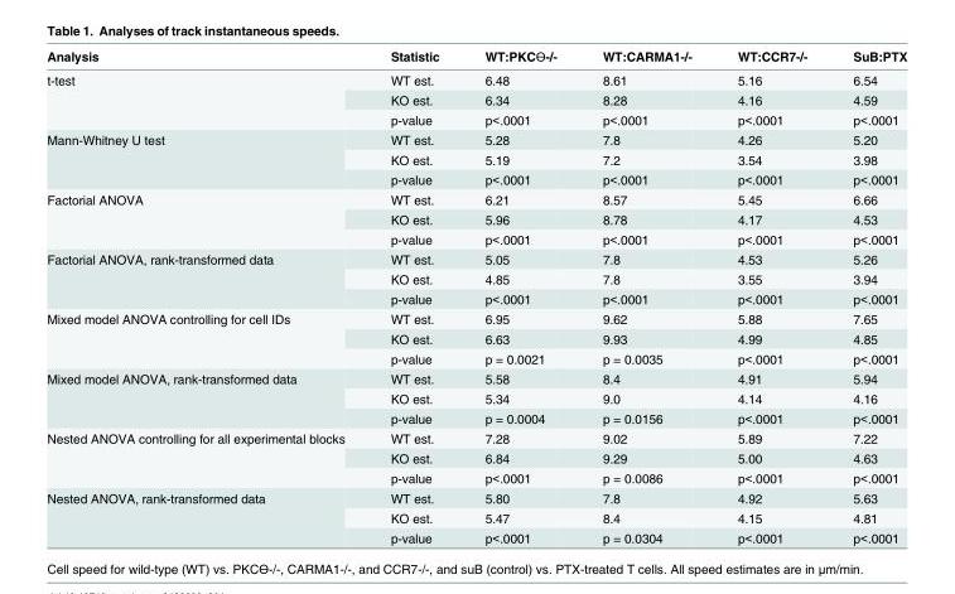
<table><thead><tr><td>Analysis</td><td>Statistic</td><td>WT:PKCƟ-/-</td><td>WT:CARMA1-/-</td><td>WT:CCR7-/-</td><td>SuB:PTX</td></tr></thead><tbody><tr><td rowspan="3">t-test</td><td>WT est.</td><td>6.48</td><td>8.61</td><td>5.16</td><td>6.54</td></tr><tr><td>KO est.</td><td>6.34</td><td>8.28</td><td>4.16</td><td>4.59</td></tr><tr><td>p-value</td><td>p&lt;.0001</td><td>p&lt;.0001</td><td>p&lt;.0001</td><td>p&lt;.0001</td></tr><tr><td rowspan="3">Mann-Whitney U test</td><td>WT est.</td><td>5.28</td><td>7.8</td><td>4.26</td><td>5.20</td></tr><tr><td>KO est.</td><td>5.19</td><td>7.2</td><td>3.54</td><td>3.98</td></tr><tr><td>p-value</td><td>p&lt;.0001</td><td>p&lt;.0001</td><td>p&lt;.0001</td><td>p&lt;.0001</td></tr><tr><td rowspan="3">Factorial ANOVA</td><td>WT est.</td><td>6.21</td><td>8.57</td><td>5.45</td><td>6.66</td></tr><tr><td>KO est.</td><td>5.96</td><td>8.78</td><td>4.17</td><td>4.53</td></tr><tr><td>p-value</td><td>p&lt;.0001</td><td>p&lt;.0001</td><td>p&lt;.0001</td><td>p&lt;.0001</td></tr><tr><td rowspan="3">Factorial ANOVA, rank-transformed data</td><td>WT est.</td><td>5.05</td><td>7.8</td><td>4.53</td><td>5.26</td></tr><tr><td>KO est.</td><td>4.85</td><td>7.8</td><td>3.55</td><td>3.94</td></tr><tr><td>p-value</td><td>p&lt;.0001</td><td>p&lt;.0001</td><td>p&lt;.0001</td><td>p&lt;.0001</td></tr><tr><td rowspan="3">Mixed model ANOVA controlling for cell IDs</td><td>WT est.</td><td>6.95</td><td>9.62</td><td>5.88</td><td>7.65</td></tr><tr><td>KO est.</td><td>6.63</td><td>9.93</td><td>4.99</td><td>4.85</td></tr><tr><td>p-value</td><td>p = 0.0021</td><td>p = 0.0035</td><td>p&lt;.0001</td><td>p&lt;.0001</td></tr><tr><td rowspan="3">Mixed model ANOVA, rank-transformed data</td><td>WT est.</td><td>5.58</td><td>8.4</td><td>4.91</td><td>5.94</td></tr><tr><td>KO est.</td><td>5.34</td><td>9.0</td><td>4.14</td><td>4.16</td></tr><tr><td>p-value</td><td>p = 0.0004</td><td>p = 0.0156</td><td>p&lt;.0001</td><td>p&lt;.0001</td></tr><tr><td rowspan="3">Nested ANOVA controlling for all experimental blocks</td><td>WT est.</td><td>7.28</td><td>9.02</td><td>5.89</td><td>7.22</td></tr><tr><td>KO est.</td><td>6.84</td><td>9.29</td><td>5.00</td><td>4.63</td></tr><tr><td>p-value</td><td>p&lt;.0001</td><td>p = 0.0086</td><td>p&lt;.0001</td><td>p&lt;.0001</td></tr><tr><td rowspan="3">Nested ANOVA, rank-transformed data</td><td>WT est.</td><td>5.80</td><td>7.8</td><td>4.92</td><td>5.63</td></tr><tr><td>KO est.</td><td>5.47</td><td>8.4</td><td>4.15</td><td>4.81</td></tr><tr><td>p-value</td><td>p&lt;.0001</td><td>p = 0.0304</td><td>p&lt;.0001</td><td>p&lt;.0001</td></tr></tbody></table>